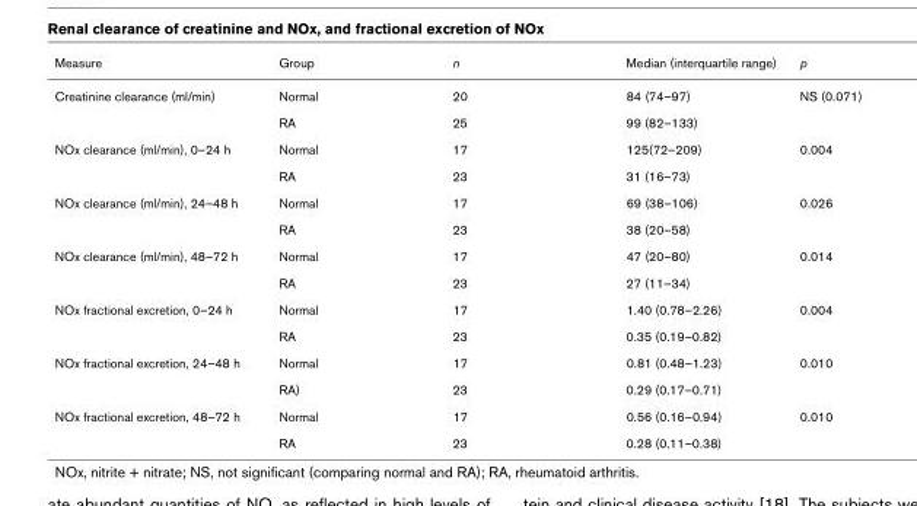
<table><thead><tr><td>Measure</td><td>Group</td><td>n</td><td>Median (interquartile range)</td><td>p</td></tr></thead><tbody><tr><td rowspan="2">Creatinine clearance (ml/min)</td><td>Normal</td><td>20</td><td>84 (74–97)</td><td>NS (0.071)</td></tr><tr><td>RA</td><td>25</td><td>99 (82–133)</td><td></td></tr><tr><td rowspan="2">NOx clearance (ml/min), 0–24 h</td><td>Normal</td><td>17</td><td>125(72–209)</td><td>0.004</td></tr><tr><td>RA</td><td>23</td><td>31 (16–73)</td><td></td></tr><tr><td rowspan="2">NOx clearance (ml/min), 24–48 h</td><td>Normal</td><td>17</td><td>69 (38–106)</td><td>0.026</td></tr><tr><td>RA</td><td>23</td><td>38 (20–58)</td><td></td></tr><tr><td rowspan="2">NOx clearance (ml/min), 48–72 h</td><td>Normal</td><td>17</td><td>47 (20–80)</td><td>0.014</td></tr><tr><td>RA</td><td>23</td><td>27 (11–34)</td><td></td></tr><tr><td rowspan="2">NOx fractional excretion, 0–24 h</td><td>Normal</td><td>17</td><td>1.40 (0.78–2.26)</td><td>0.004</td></tr><tr><td>RA</td><td>23</td><td>0.35 (0.19–0.82)</td><td></td></tr><tr><td rowspan="2">NOx fractional excretion, 24–48 h</td><td>Normal</td><td>17</td><td>0.81 (0.48–1.23)</td><td>0.010</td></tr><tr><td>RA)</td><td>23</td><td>0.29 (0.17–0.71)</td><td></td></tr><tr><td rowspan="2">NOx fractional excretion, 48–72 h</td><td>Normal</td><td>17</td><td>0.56 (0.16–0.94)</td><td>0.010</td></tr><tr><td>RA</td><td>23</td><td>0.28 (0.11–0.38)</td><td></td></tr></tbody></table>